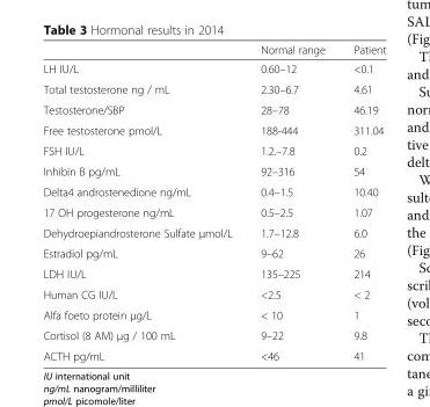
<table><thead><tr><td></td><td>Normal range</td><td>Patient</td></tr></thead><tbody><tr><td>LH IU/L</td><td>0.60–12</td><td>&lt;0.1</td></tr><tr><td>Total testosterone ng / mL</td><td>2.30–6.7</td><td>4.61</td></tr><tr><td>Testosterone/SBP</td><td>28–78</td><td>46.19</td></tr><tr><td>Free testosterone pmol/L</td><td>188-444</td><td>311.04</td></tr><tr><td>FSH IU/L</td><td>1.2.–7.8</td><td>0.2</td></tr><tr><td>Inhibin B pg/mL</td><td>92–316</td><td>54</td></tr><tr><td>Delta4 androstenedione ng/mL</td><td>0.4–1.5</td><td>10.40</td></tr><tr><td>17 OH progesterone ng/mL</td><td>0.5–2.5</td><td>1.07</td></tr><tr><td>Dehydroepiandrosterone Sulfate μmol/L</td><td>1.7–12.8</td><td>6.0</td></tr><tr><td>Estradiol pg/mL</td><td>9–62</td><td>26</td></tr><tr><td>LDH IU/L</td><td>135–225</td><td>214</td></tr><tr><td>Human CG IU/L</td><td>&lt;2.5</td><td>&lt; 2</td></tr><tr><td>Alfa foeto protein μg/L</td><td>&lt; 10</td><td>1</td></tr><tr><td>Cortisol (8 AM) μg / 100 mL</td><td>9–22</td><td>9.8</td></tr><tr><td>ACTH pg/mL</td><td>&lt;46</td><td>41</td></tr></tbody></table>